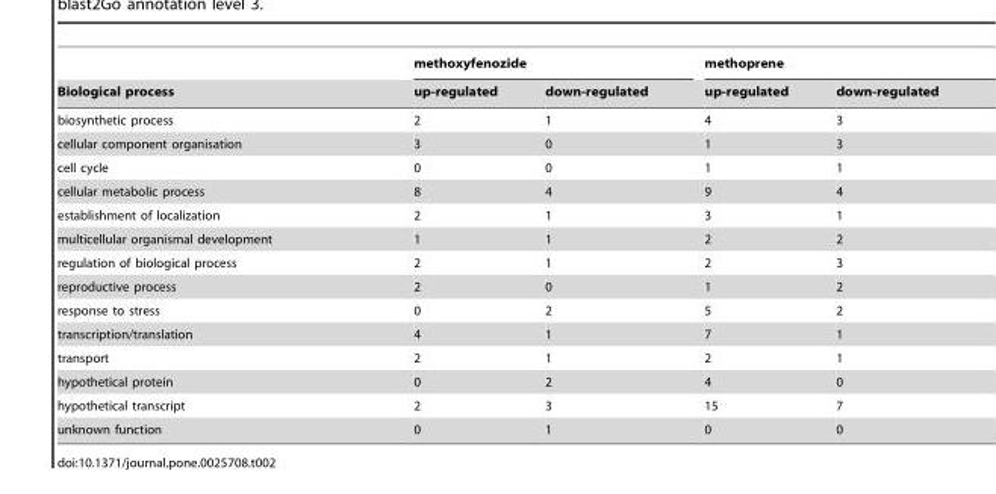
<table><thead><tr><td rowspan="2">Biological process</td><td colspan="2">methoxyfenozide</td><td colspan="2">methoprene</td></tr><tr><td>up-regulated</td><td>down-regulated</td><td>up-regulated</td><td>down-regulated</td></tr></thead><tbody><tr><td>biosynthetic process</td><td>2</td><td>1</td><td>4</td><td>3</td></tr><tr><td>cellular component organisation</td><td>3</td><td>0</td><td>1</td><td>3</td></tr><tr><td>cell cycle</td><td>0</td><td>0</td><td>1</td><td>1</td></tr><tr><td>cellular metabolic process</td><td>8</td><td>4</td><td>9</td><td>4</td></tr><tr><td>establishment of localization</td><td>2</td><td>1</td><td>3</td><td>1</td></tr><tr><td>multicellular organismal development</td><td>1</td><td>1</td><td>2</td><td>2</td></tr><tr><td>regulation of biological process</td><td>2</td><td>1</td><td>2</td><td>3</td></tr><tr><td>reproductive process</td><td>2</td><td>0</td><td>1</td><td>2</td></tr><tr><td>response to stress</td><td>0</td><td>2</td><td>5</td><td>2</td></tr><tr><td>transcription/translation</td><td>4</td><td>1</td><td>7</td><td>1</td></tr><tr><td>transport</td><td>2</td><td>1</td><td>2</td><td>1</td></tr><tr><td>hypothetical protein</td><td>0</td><td>2</td><td>4</td><td>0</td></tr><tr><td>hypothetical transcript</td><td>2</td><td>3</td><td>15</td><td>7</td></tr><tr><td>unknown function</td><td>0</td><td>1</td><td>0</td><td>0</td></tr></tbody></table>